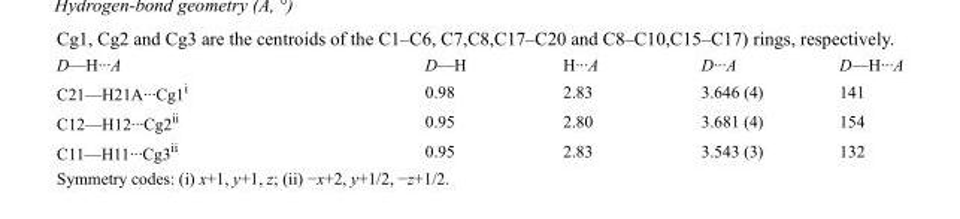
<table><tbody><tr><td>D—H···A</td><td>D—H</td><td>H···A</td><td>D···A</td><td>D—H···A</td></tr><tr><td>C21—H21A···Cg1<sup>i</sup></td><td>0.98</td><td>2.83</td><td>3.646 (4)</td><td>141</td></tr><tr><td>C12—H12···Cg2<sup>ii</sup></td><td>0.95</td><td>2.80</td><td>3.681 (4)</td><td>154</td></tr><tr><td>C11—H11···Cg3<sup>ii</sup></td><td>0.95</td><td>2.83</td><td>3.543 (3)</td><td>132</td></tr></tbody></table>